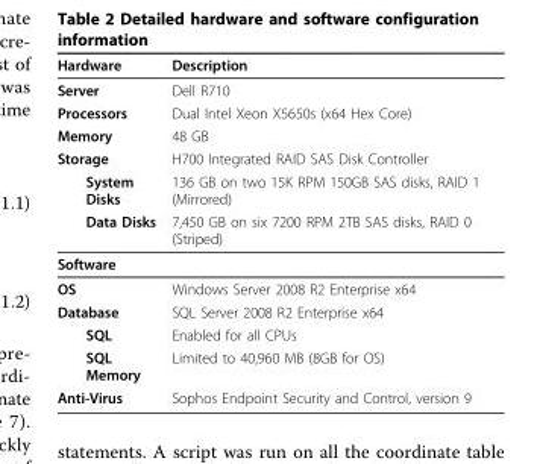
<table><thead><tr><td>Hardware</td><td>Description</td></tr></thead><tbody><tr><td>Server</td><td>Dell R710</td></tr><tr><td>Processors</td><td>Dual Intel Xeon X5650s (x64 Hex Core)</td></tr><tr><td>Memory</td><td>48 GB</td></tr><tr><td>Storage</td><td>H700 Integrated RAID SAS Disk Controller</td></tr><tr><td>System Disks</td><td>136 GB on two 15K RPM 150GB SAS disks, RAID 1 (Mirrored)</td></tr><tr><td>Data Disks</td><td>7,450 GB on six 7200 RPM 2TB SAS disks, RAID 0 (Striped)</td></tr><tr><td colspan="2">Software</td></tr><tr><td>OS</td><td>Windows Server 2008 R2 Enterprise x64</td></tr><tr><td>Database</td><td>SQL Server 2008 R2 Enterprise x64</td></tr><tr><td>SQL</td><td>Enabled for all CPUs</td></tr><tr><td>SQL Memory</td><td>Limited to 40,960 MB (8GB for OS)</td></tr><tr><td>Anti-Virus</td><td>Sophos Endpoint Security and Control, version 9</td></tr></tbody></table>